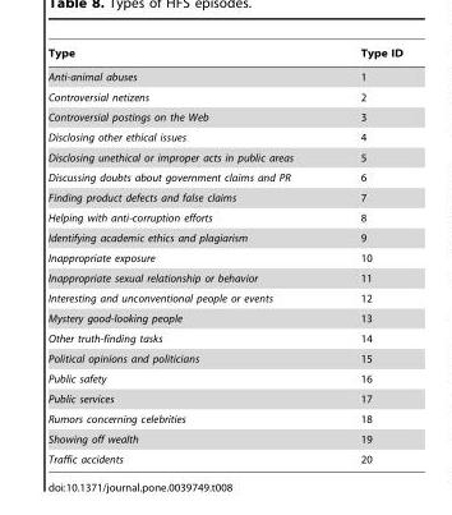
<table><thead><tr><td>Type</td><td>Type ID</td></tr></thead><tbody><tr><td>Anti-animal abuses</td><td>1</td></tr><tr><td>Controversial netizens</td><td>2</td></tr><tr><td>Controversial postings on the Web</td><td>3</td></tr><tr><td>Disclosing other ethical issues</td><td>4</td></tr><tr><td>Disclosing unethical or improper acts in public areas</td><td>5</td></tr><tr><td>Discussing doubts about government claims and PR</td><td>6</td></tr><tr><td>Finding product defects and false claims</td><td>7</td></tr><tr><td>Helping with anti-corruption efforts</td><td>8</td></tr><tr><td>Identifying academic ethics and plagiarism</td><td>9</td></tr><tr><td>Inappropriate exposure</td><td>10</td></tr><tr><td>Inappropriate sexual relationship or behavior</td><td>11</td></tr><tr><td>Interesting and unconventional people or events</td><td>12</td></tr><tr><td>Mystery good-looking people</td><td>13</td></tr><tr><td>Other truth-finding tasks</td><td>14</td></tr><tr><td>Political opinions and politicians</td><td>15</td></tr><tr><td>Public safety</td><td>16</td></tr><tr><td>Public services</td><td>17</td></tr><tr><td>Rumors concerning celebrities</td><td>18</td></tr><tr><td>Showing off wealth</td><td>19</td></tr><tr><td>Traffic accidents</td><td>20</td></tr></tbody></table>